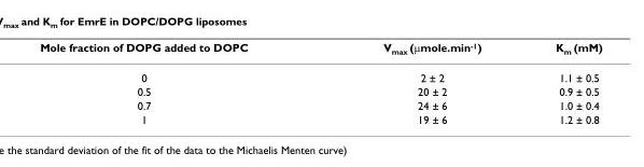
<table><thead><tr><td>Mole fraction of DOPG added to DOPC</td><td>V<sub>max</sub> (μmole.min<sup>-1</sup>)</td><td>K<sub>m</sub> (mM)</td></tr></thead><tbody><tr><td>0</td><td>2 ± 2</td><td>1.1 ± 0.5</td></tr><tr><td>0.5</td><td>20 ± 2</td><td>0.9 ± 0.5</td></tr><tr><td>0.7</td><td>24 ± 6</td><td>1.0 ± 0.4</td></tr><tr><td>1</td><td>19 ± 6</td><td>1.2 ± 0.8</td></tr></tbody></table>